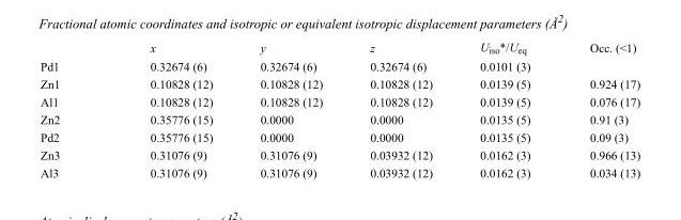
<table><thead><tr><td></td><td>x</td><td>y</td><td>z</td><td>U<sub>iso</sub>*/U<sub>eq</sub></td><td>Occ. (&lt;1)</td></tr></thead><tbody><tr><td>Pd1</td><td>0.32674 (6)</td><td>0.32674 (6)</td><td>0.32674 (6)</td><td>0.0101 (3)</td><td></td></tr><tr><td>Zn1</td><td>0.10828 (12)</td><td>0.10828 (12)</td><td>0.10828 (12)</td><td>0.0139 (5)</td><td>0.924 (17)</td></tr><tr><td>Al1</td><td>0.10828 (12)</td><td>0.10828 (12)</td><td>0.10828 (12)</td><td>0.0139 (5)</td><td>0.076 (17)</td></tr><tr><td>Zn2</td><td>0.35776 (15)</td><td>0.0000</td><td>0.0000</td><td>0.0135 (5)</td><td>0.91 (3)</td></tr><tr><td>Pd2</td><td>0.35776 (15)</td><td>0.0000</td><td>0.0000</td><td>0.0135 (5)</td><td>0.09 (3)</td></tr><tr><td>Zn3</td><td>0.31076 (9)</td><td>0.31076 (9)</td><td>0.03932 (12)</td><td>0.0162 (3)</td><td>0.966 (13)</td></tr><tr><td>Al3</td><td>0.31076 (9)</td><td>0.31076 (9)</td><td>0.03932 (12)</td><td>0.0162 (3)</td><td>0.034 (13)</td></tr></tbody></table>